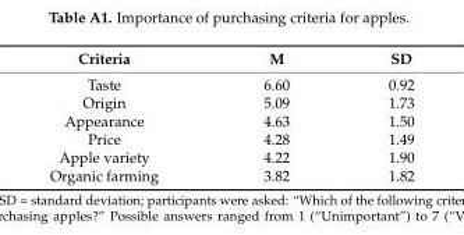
<table><thead><tr><td>Criteria</td><td>M</td><td>SD</td></tr></thead><tbody><tr><td>Taste</td><td>6.60</td><td>0.92</td></tr><tr><td>Origin</td><td>5.09</td><td>1.73</td></tr><tr><td>Appearance</td><td>4.63</td><td>1.50</td></tr><tr><td>Price</td><td>4.28</td><td>1.49</td></tr><tr><td>Apple variety</td><td>4.22</td><td>1.90</td></tr><tr><td>Organic farming</td><td>3.82</td><td>1.82</td></tr></tbody></table>